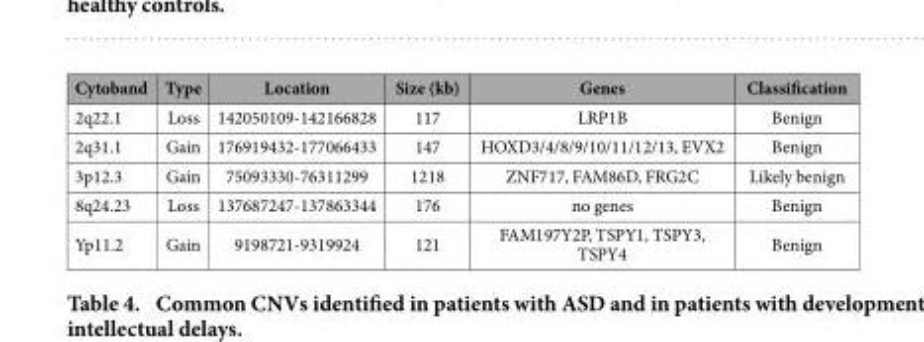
<table><thead><tr><td>Cytoband</td><td>Type</td><td>Location</td><td>Size (kb)</td><td>Genes</td><td>Classification</td></tr></thead><tbody><tr><td>2q22.1</td><td>Loss</td><td>142050109-142166828</td><td>117</td><td>LRP1B</td><td>Benign</td></tr><tr><td>2q31.1</td><td>Gain</td><td>176919432-177066433</td><td>147</td><td>HOXD3/4/8/9/10/11/12/13, EVX2</td><td>Benign</td></tr><tr><td>3p12.3</td><td>Gain</td><td>75093330-76311299</td><td>1218</td><td>ZNF717, FAM86D, FRG2C</td><td>Likely benign</td></tr><tr><td>8q24.23</td><td>Loss</td><td>137687247-137863344</td><td>176</td><td>no genes</td><td>Benign</td></tr><tr><td>Yp11.2</td><td>Gain</td><td>9198721-9319924</td><td>121</td><td>FAM197Y2P, TSPY1, TSPY3, TSPY4</td><td>Benign</td></tr></tbody></table>